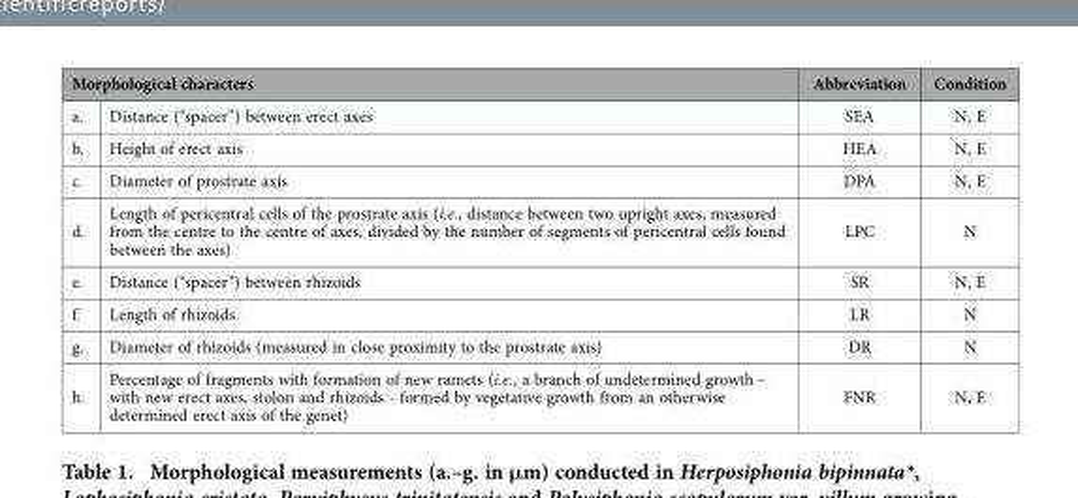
<table><thead><tr><td colspan="2">Morphological characters</td><td rowspan="2">Abbreviation SEA</td><td rowspan="2">Condition N, E</td></tr><tr><td>a.</td><td>Distance (“spacer”) between erect axes</td></tr></thead><tbody><tr><td>b.</td><td>Height of erect axis</td><td>HEA</td><td>N, E</td></tr><tr><td>c.</td><td>Diameter of prostrate axis</td><td>DPA</td><td>N, E</td></tr><tr><td>d.</td><td>Length of pericentral cells of the prostrate axis (i.e., distance between two upright axes, measured from the centre to the centre of axes, divided by the number of segments of pericentral cells found between the axes)</td><td>LPC</td><td>N</td></tr><tr><td>e.</td><td>Distance (“spacer”) between rhizoids</td><td>SR</td><td>N, E</td></tr><tr><td>f.</td><td>Length of rhizoids</td><td>LR</td><td>N</td></tr><tr><td>g.</td><td>Diameter of rhizoids (measured in close proximity to the prostrate axis)</td><td>DR</td><td>N</td></tr><tr><td>h.</td><td>Percentage of fragments with formation of new ramets (i.e., a branch of undetermined growth - with new erect axes, stolon and rhizoids - formed by vegetative growth from an otherwise determined erect axis of the genet)</td><td>FNR</td><td>N, E</td></tr></tbody></table>